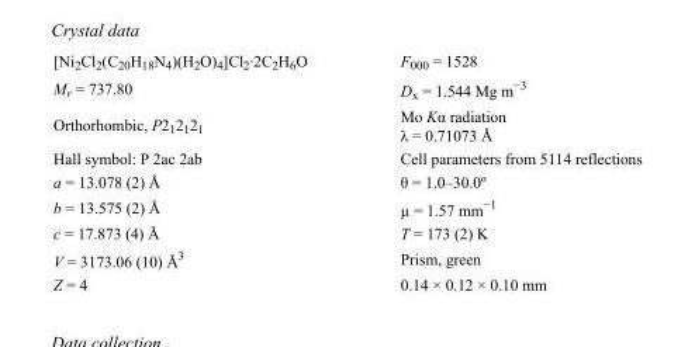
<table><tbody><tr><td>[Ni<sub>2</sub>Cl<sub>2</sub>(C<sub>20</sub>H<sub>18</sub>N<sub>4</sub>)(H<sub>2</sub>O)<sub>4</sub>]Cl<sub>2</sub>·2C<sub>2</sub>H<sub>6</sub>O</td><td>F000 = 1528</td></tr><tr><td>M<sub>r</sub> = 737.80</td><td>D<sub>x</sub> = 1.544 Mg m<sup>−3</sup></td></tr><tr><td>Orthorhombic, P2<sub>1</sub>2<sub>1</sub>2<sub>1</sub></td><td>Mo Kα radiation λ = 0.71073 Å</td></tr><tr><td>Hall symbol: P 2ac 2ab</td><td>Cell parameters from 5114 reflections</td></tr><tr><td>a = 13.078 (2) Å</td><td>θ = 1.0–30.0º</td></tr><tr><td>b = 13.575 (2) Å</td><td>µ = 1.57 mm<sup>−1</sup></td></tr><tr><td>c = 17.873 (4) Å</td><td>T = 173 (2) K</td></tr><tr><td>V = 3173.06 (10) Å<sup>3</sup></td><td>Prism, green</td></tr><tr><td>Z = 4</td><td>0.14 × 0.12 × 0.10 mm</td></tr></tbody></table>